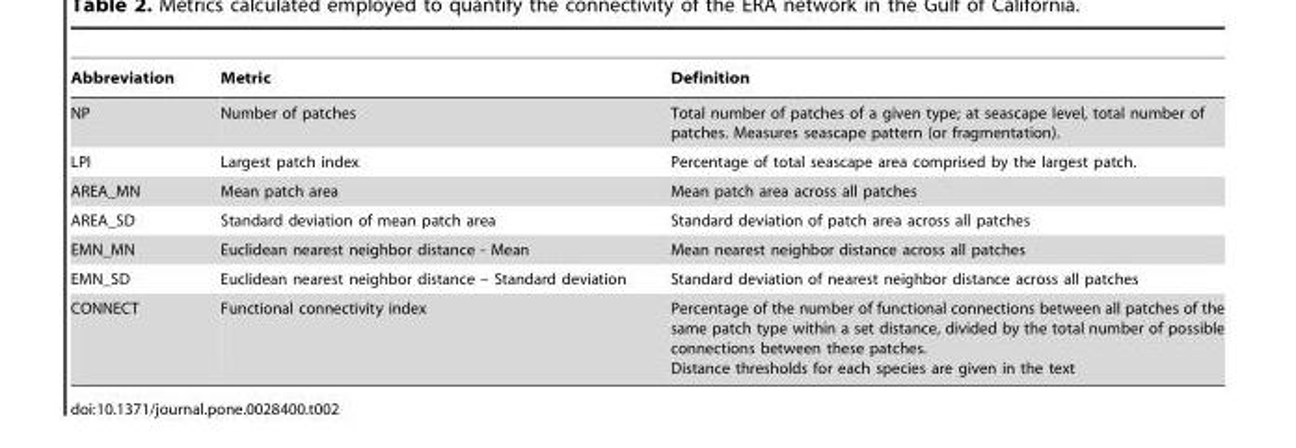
<table><thead><tr><td>Abbreviation</td><td>Metric</td><td>Definition</td></tr></thead><tbody><tr><td>NP</td><td>Number of patches</td><td>Total number of patches of a given type; at seascape level, total number of patches. Measures seascape pattern (or fragmentation).</td></tr><tr><td>LPI</td><td>Largest patch index</td><td>Percentage of total seascape area comprised by the largest patch.</td></tr><tr><td>AREA_MN</td><td>Mean patch area</td><td>Mean patch area across all patches</td></tr><tr><td>AREA_SD</td><td>Standard deviation of mean patch area</td><td>Standard deviation of patch area across all patches</td></tr><tr><td>EMN_MN</td><td>Euclidean nearest neighbor distance - Mean</td><td>Mean nearest neighbor distance across all patches</td></tr><tr><td>EMN_SD</td><td>Euclidean nearest neighbor distance – Standard deviation</td><td>Standard deviation of nearest neighbor distance across all patches</td></tr><tr><td>CONNECT</td><td>Functional connectivity index</td><td>Percentage of the number of functional connections between all patches of the same patch type within a set distance, divided by the total number of possible connections between these patches. Distance thresholds for each species are given in the text</td></tr></tbody></table>